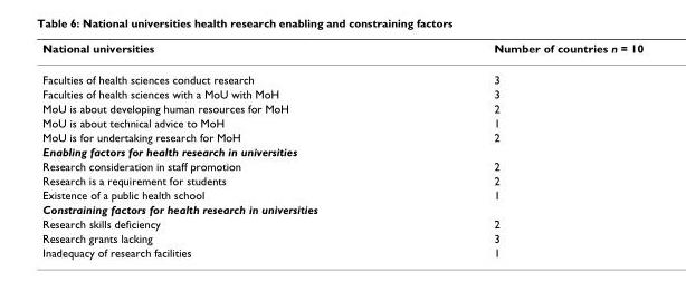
<table><thead><tr><td>National universities</td><td>Number of countries n = 10</td></tr></thead><tbody><tr><td>Faculties of health sciences conduct research</td><td>3</td></tr><tr><td>Faculties of health sciences with a MoU with MoH</td><td>3</td></tr><tr><td>MoU is about developing human resources for MoH</td><td>2</td></tr><tr><td>MoU is about technical advice to MoH</td><td>1</td></tr><tr><td>MoU is for undertaking research for MoH</td><td>2</td></tr><tr><td colspan="2">Enabling factors for health research in universities</td></tr><tr><td>Research consideration in staff promotion</td><td>2</td></tr><tr><td>Research is a requirement for students</td><td>2</td></tr><tr><td>Existence of a public health school</td><td>1</td></tr><tr><td colspan="2">Constraining factors for health research in universities</td></tr><tr><td>Research skills deficiency</td><td>2</td></tr><tr><td>Research grants lacking</td><td>3</td></tr><tr><td>Inadequacy of research facilities</td><td>1</td></tr></tbody></table>